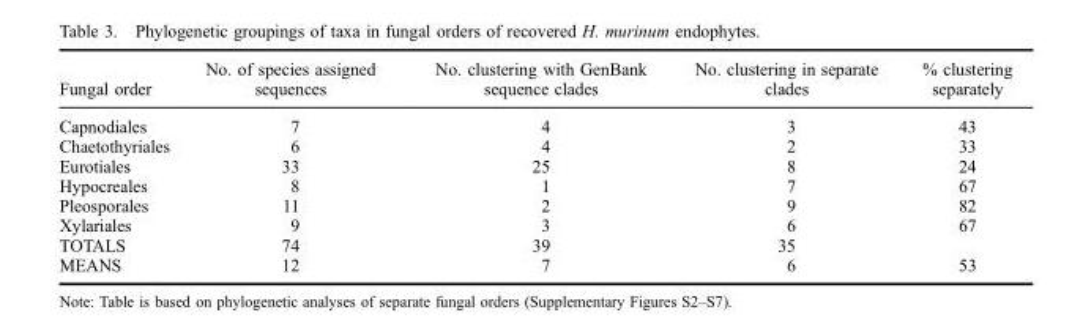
<table><thead><tr><td>Fungal order</td><td>No. of species assigned sequences</td><td>No. clustering with GenBank sequence clades</td><td>No. clustering in separate clades</td><td>% clustering separately</td></tr></thead><tbody><tr><td>Capnodiales</td><td>7</td><td>4</td><td>3</td><td>43</td></tr><tr><td>Chaetothyriales</td><td>6</td><td>4</td><td>2</td><td>33</td></tr><tr><td>Eurotiales</td><td>33</td><td>25</td><td>8</td><td>24</td></tr><tr><td>Hypocreales</td><td>8</td><td>1</td><td>7</td><td>67</td></tr><tr><td>Pleosporales</td><td>11</td><td>2</td><td>9</td><td>82</td></tr><tr><td>Xylariales</td><td>9</td><td>3</td><td>6</td><td>67</td></tr><tr><td>TOTALS</td><td>74</td><td>39</td><td>35</td><td></td></tr><tr><td>MEANS</td><td>12</td><td>7</td><td>6</td><td>53</td></tr></tbody></table>